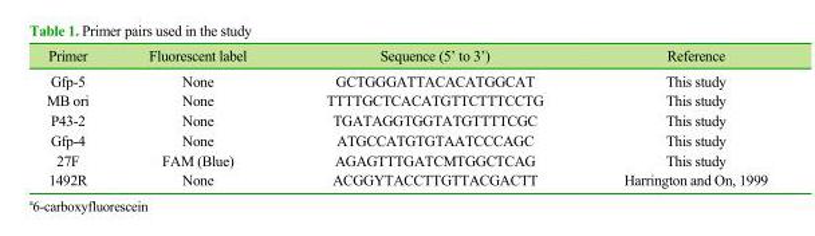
<table><thead><tr><td>Primer</td><td>Fluorescent label</td><td>Sequence (5’ to 3’)</td><td>Reference</td></tr></thead><tbody><tr><td>Gfp-5</td><td>None</td><td>GCTGGGATTACACATGGCAT</td><td>This study</td></tr><tr><td>MB ori</td><td>None</td><td>TTTTGCTCACATGTTCTTTCCTG</td><td>This study</td></tr><tr><td>P43-2</td><td>None</td><td>TGATAGGTGGTATGTTTTCGC</td><td>This study</td></tr><tr><td>Gfp-4</td><td>None</td><td>ATGCCATGTGTAATCCCAGC</td><td>This study</td></tr><tr><td>27F</td><td>FAM (Blue)</td><td>AGAGTTTGATCMTGGCTCAG</td><td>This study</td></tr><tr><td>1492R</td><td>None</td><td>ACGGYTACCTTGTTACGACTT</td><td>Harrington and On, 1999</td></tr></tbody></table>